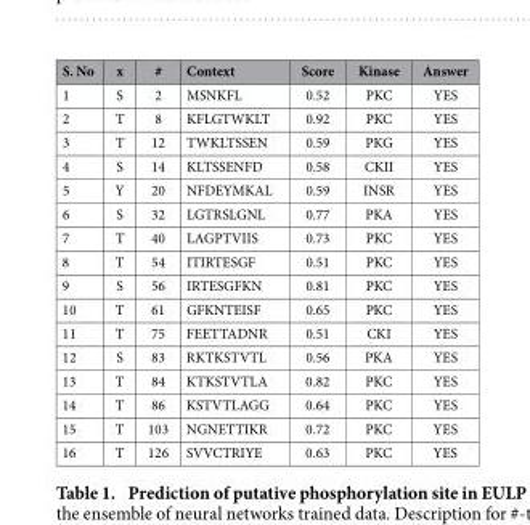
<table><thead><tr><td>S. No</td><td>x</td><td>#</td><td>Context</td><td>Score</td><td>Kinase</td><td>Answer</td></tr></thead><tbody><tr><td>1</td><td>S</td><td>2</td><td>MSNKFL</td><td>0.52</td><td>PKC</td><td>YES</td></tr><tr><td>2</td><td>T</td><td>8</td><td>KFLGTWKLT</td><td>0.92</td><td>PKC</td><td>YES</td></tr><tr><td>3</td><td>T</td><td>12</td><td>TWKLTSSEN</td><td>0.59</td><td>PKG</td><td>YES</td></tr><tr><td>4</td><td>S</td><td>14</td><td>KLTSSENFD</td><td>0.58</td><td>CKII</td><td>YES</td></tr><tr><td>5</td><td>Y</td><td>20</td><td>NFDEYMKAL</td><td>0.59</td><td>INSR</td><td>YES</td></tr><tr><td>6</td><td>S</td><td>32</td><td>LGTRSLGNL</td><td>0.77</td><td>PKA</td><td>YES</td></tr><tr><td>7</td><td>T</td><td>40</td><td>LAGPTVIIS</td><td>0.73</td><td>PKC</td><td>YES</td></tr><tr><td>8</td><td>T</td><td>54</td><td>ITIRTESGF</td><td>0.51</td><td>PKC</td><td>YES</td></tr><tr><td>9</td><td>S</td><td>56</td><td>IRTESGFKN</td><td>0.81</td><td>PKC</td><td>YES</td></tr><tr><td>10</td><td>T</td><td>61</td><td>GFKNTEISF</td><td>0.65</td><td>PKC</td><td>YES</td></tr><tr><td>11</td><td>T</td><td>75</td><td>FEETTADNR</td><td>0.51</td><td>CKI</td><td>YES</td></tr><tr><td>12</td><td>S</td><td>83</td><td>RKTKSTVTL</td><td>0.56</td><td>PKA</td><td>YES</td></tr><tr><td>13</td><td>T</td><td>84</td><td>KTKSTVTLA</td><td>0.82</td><td>PKC</td><td>YES</td></tr><tr><td>14</td><td>T</td><td>86</td><td>KSTVTLAGG</td><td>0.64</td><td>PKC</td><td>YES</td></tr><tr><td>15</td><td>T</td><td>103</td><td>NGNETTIKR</td><td>0.72</td><td>PKC</td><td>YES</td></tr><tr><td>16</td><td>T</td><td>126</td><td>SVVCTRIYE</td><td>0.63</td><td>PKC</td><td>YES</td></tr></tbody></table>